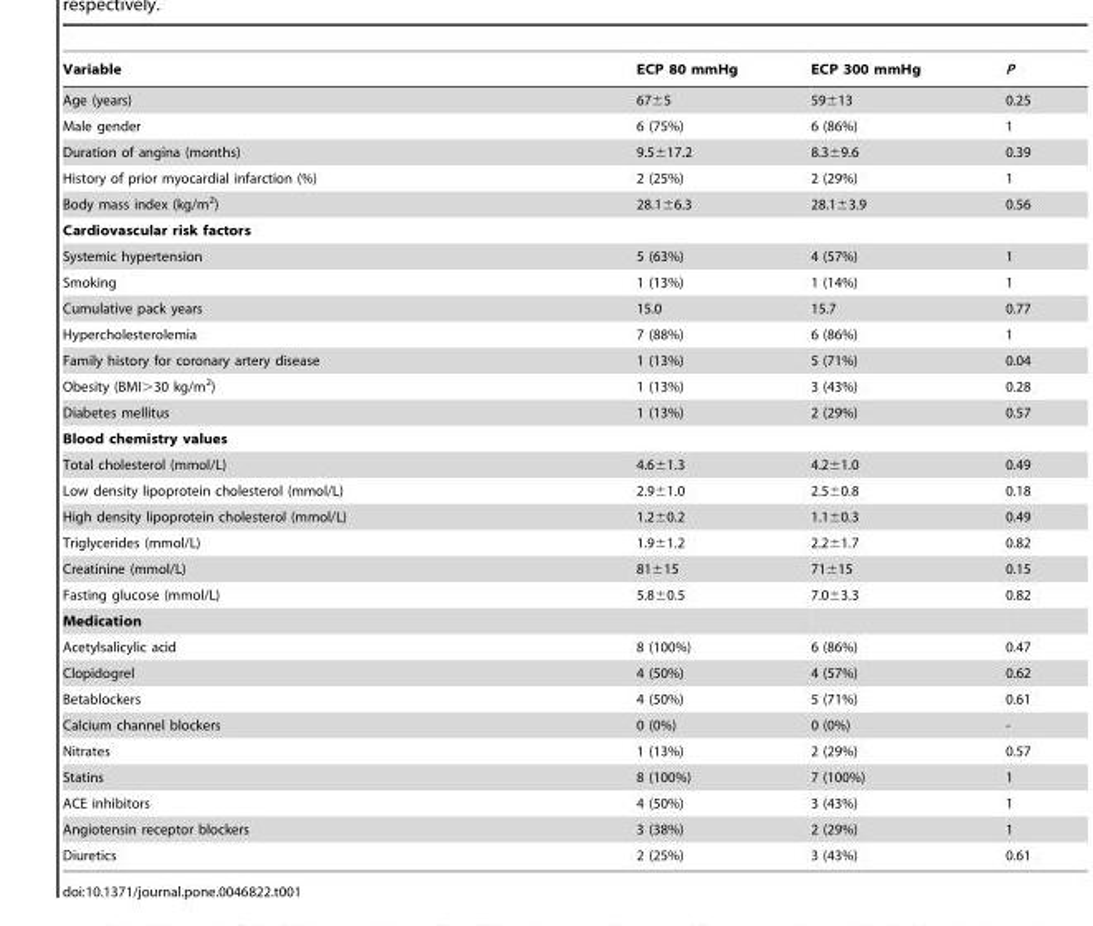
<table><thead><tr><td>Variable</td><td>ECP 80 mmHg</td><td>ECP 300 mmHg</td><td>P</td></tr></thead><tbody><tr><td>Age (years)</td><td>67±5</td><td>59±13</td><td>0.25</td></tr><tr><td>Male gender</td><td>6 (75%)</td><td>6 (86%)</td><td>1</td></tr><tr><td>Duration of angina (months)</td><td>9.5±17.2</td><td>8.3±9.6</td><td>0.39</td></tr><tr><td>History of prior myocardial infarction (%)</td><td>2 (25%)</td><td>2 (29%)</td><td>1</td></tr><tr><td>Body mass index (kg/m<sup>2</sup>)</td><td>28.1±6.3</td><td>28.1±3.9</td><td>0.56</td></tr><tr><td colspan="4">Cardiovascular risk factors</td></tr><tr><td>Systemic hypertension</td><td>5 (63%)</td><td>4 (57%)</td><td>1</td></tr><tr><td>Smoking</td><td>1 (13%)</td><td>1 (14%)</td><td>1</td></tr><tr><td>Cumulative pack years</td><td>15.0</td><td>15.7</td><td>0.77</td></tr><tr><td>Hypercholesterolemia</td><td>7 (88%)</td><td>6 (86%)</td><td>1</td></tr><tr><td>Family history for coronary artery disease</td><td>1 (13%)</td><td>5 (71%)</td><td>0.04</td></tr><tr><td>Obesity (BMI&gt;30 kg/m<sup>2</sup>)</td><td>1 (13%)</td><td>3 (43%)</td><td>0.28</td></tr><tr><td>Diabetes mellitus</td><td>1 (13%)</td><td>2 (29%)</td><td>0.57</td></tr><tr><td colspan="4">Blood chemistry values</td></tr><tr><td>Total cholesterol (mmol/L)</td><td>4.6±1.3</td><td>4.2±1.0</td><td>0.49</td></tr><tr><td>Low density lipoprotein cholesterol (mmol/L)</td><td>2.9±1.0</td><td>2.5±0.8</td><td>0.18</td></tr><tr><td>High density lipoprotein cholesterol (mmol/L)</td><td>1.2±0.2</td><td>1.1±0.3</td><td>0.49</td></tr><tr><td>Triglycerides (mmol/L)</td><td>1.9±1.2</td><td>2.2±1.7</td><td>0.82</td></tr><tr><td>Creatinine (mmol/L)</td><td>81±15</td><td>71±15</td><td>0.15</td></tr><tr><td>Fasting glucose (mmol/L)</td><td>5.8±0.5</td><td>7.0±3.3</td><td>0.82</td></tr><tr><td colspan="4">Medication</td></tr><tr><td>Acetylsalicylic acid</td><td>8 (100%)</td><td>6 (86%)</td><td>0.47</td></tr><tr><td>Clopidogrel</td><td>4 (50%)</td><td>4 (57%)</td><td>0.62</td></tr><tr><td>Betablockers</td><td>4 (50%)</td><td>5 (71%)</td><td>0.61</td></tr><tr><td>Calcium channel blockers</td><td>0 (0%)</td><td>0 (0%)</td><td>-</td></tr><tr><td>Nitrates</td><td>1 (13%)</td><td>2 (29%)</td><td>0.57</td></tr><tr><td>Statins</td><td>8 (100%)</td><td>7 (100%)</td><td>1</td></tr><tr><td>ACE inhibitors</td><td>4 (50%)</td><td>3 (43%)</td><td>1</td></tr><tr><td>Angiotensin receptor blockers</td><td>3 (38%)</td><td>2 (29%)</td><td>1</td></tr><tr><td>Diuretics</td><td>2 (25%)</td><td>3 (43%)</td><td>0.61</td></tr></tbody></table>